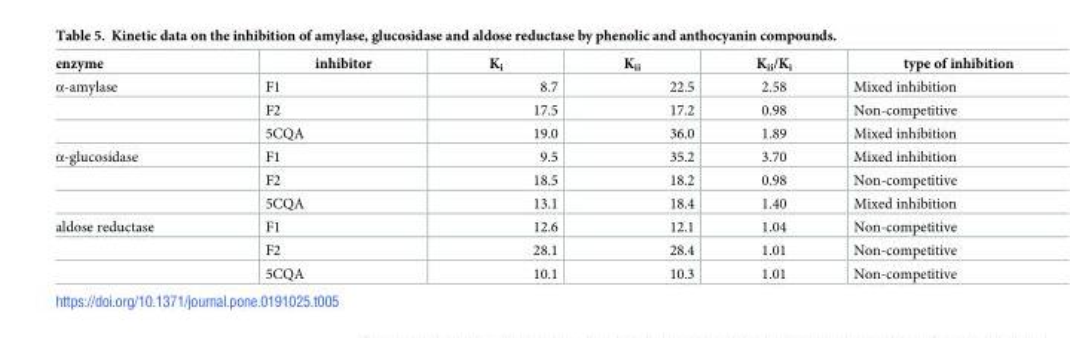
<table><thead><tr><td>enzyme</td><td>inhibitor</td><td>K<sub>i</sub></td><td>K<sub>ii</sub></td><td>K<sub>ii</sub>/K<sub>i</sub></td><td>type of inhibition</td></tr></thead><tbody><tr><td rowspan="3">α-amylase</td><td>F1</td><td>8.7</td><td>22.5</td><td>2.58</td><td>Mixed inhibition</td></tr><tr><td>F2</td><td>17.5</td><td>17.2</td><td>0.98</td><td>Non-competitive</td></tr><tr><td>5CQA</td><td>19.0</td><td>36.0</td><td>1.89</td><td>Mixed inhibition</td></tr><tr><td rowspan="3">α-glucosidase</td><td>F1</td><td>9.5</td><td>35.2</td><td>3.70</td><td>Mixed inhibition</td></tr><tr><td>F2</td><td>18.5</td><td>18.2</td><td>0.98</td><td>Non-competitive</td></tr><tr><td>5CQA</td><td>13.1</td><td>18.4</td><td>1.40</td><td>Mixed inhibition</td></tr><tr><td rowspan="3">aldose reductase</td><td>F1</td><td>12.6</td><td>12.1</td><td>1.04</td><td>Non-competitive</td></tr><tr><td>F2</td><td>28.1</td><td>28.4</td><td>1.01</td><td>Non-competitive</td></tr><tr><td>5CQA</td><td>10.1</td><td>10.3</td><td>1.01</td><td>Non-competitive</td></tr></tbody></table>